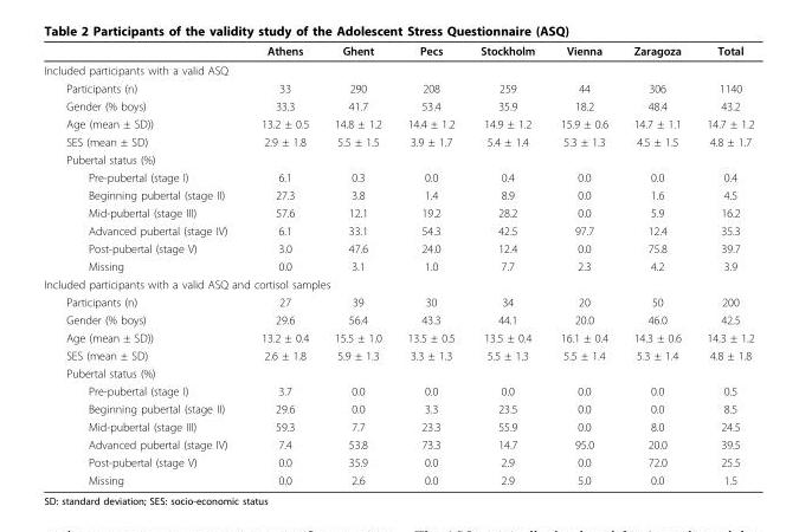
<table><thead><tr><td></td><td>Athens</td><td>Ghent</td><td>Pecs</td><td>Stockholm</td><td>Vienna</td><td>Zaragoza</td><td>Total</td></tr></thead><tbody><tr><td colspan="8">Included participants with a valid ASQ</td></tr><tr><td>Participants (n)</td><td>33</td><td>290</td><td>208</td><td>259</td><td>44</td><td>306</td><td>1140</td></tr><tr><td>Gender (% boys)</td><td>33.3</td><td>41.7</td><td>53.4</td><td>35.9</td><td>18.2</td><td>48.4</td><td>43.2</td></tr><tr><td>Age (mean ± SD))</td><td>13.2 ± 0.5</td><td>14.8 ± 1.2</td><td>14.4 ± 1.2</td><td>14.9 ± 1.2</td><td>15.9 ± 0.6</td><td>14.7 ± 1.1</td><td>14.7 ± 1.2</td></tr><tr><td>SES (mean ± SD)</td><td>2.9 ± 1.8</td><td>5.5 ± 1.5</td><td>3.9 ± 1.7</td><td>5.4 ± 1.4</td><td>5.3 ± 1.3</td><td>4.5 ± 1.5</td><td>4.8 ± 1.7</td></tr><tr><td colspan="8">Pubertal status (%)</td></tr><tr><td>Pre-pubertal (stage I)</td><td>6.1</td><td>0.3</td><td>0.0</td><td>0.4</td><td>0.0</td><td>0.0</td><td>0.4</td></tr><tr><td>Beginning pubertal (stage II)</td><td>27.3</td><td>3.8</td><td>1.4</td><td>8.9</td><td>0.0</td><td>1.6</td><td>4.5</td></tr><tr><td>Mid-pubertal (stage III)</td><td>57.6</td><td>12.1</td><td>19.2</td><td>28.2</td><td>0.0</td><td>5.9</td><td>16.2</td></tr><tr><td>Advanced pubertal (stage IV)</td><td>6.1</td><td>33.1</td><td>54.3</td><td>42.5</td><td>97.7</td><td>12.4</td><td>35.3</td></tr><tr><td>Post-pubertal (stage V)</td><td>3.0</td><td>47.6</td><td>24.0</td><td>12.4</td><td>0.0</td><td>75.8</td><td>39.7</td></tr><tr><td>Missing</td><td>0.0</td><td>3.1</td><td>1.0</td><td>7.7</td><td>2.3</td><td>4.2</td><td>3.9</td></tr><tr><td colspan="8">Included participants with a valid ASQ and cortisol samples</td></tr><tr><td>Participants (n)</td><td>27</td><td>39</td><td>30</td><td>34</td><td>20</td><td>50</td><td>200</td></tr><tr><td>Gender (% boys)</td><td>29.6</td><td>56.4</td><td>43.3</td><td>44.1</td><td>20.0</td><td>46.0</td><td>42.5</td></tr><tr><td>Age (mean ± SD))</td><td>13.2 ± 0.4</td><td>15.5 ± 1.0</td><td>13.5 ± 0.5</td><td>13.5 ± 0.4</td><td>16.1 ± 0.4</td><td>14.3 ± 0.6</td><td>14.3 ± 1.2</td></tr><tr><td>SES (mean ± SD)</td><td>2.6 ± 1.8</td><td>5.9 ± 1.3</td><td>3.3 ± 1.3</td><td>5.5 ± 1.3</td><td>5.5 ± 1.4</td><td>5.3 ± 1.4</td><td>4.8 ± 1.8</td></tr><tr><td colspan="8">Pubertal status (%)</td></tr><tr><td>Pre-pubertal (stage I)</td><td>3.7</td><td>0.0</td><td>0.0</td><td>0.0</td><td>0.0</td><td>0.0</td><td>0.5</td></tr><tr><td>Beginning pubertal (stage II)</td><td>29.6</td><td>0.0</td><td>3.3</td><td>23.5</td><td>0.0</td><td>0.0</td><td>8.5</td></tr><tr><td>Mid-pubertal (stage III)</td><td>59.3</td><td>7.7</td><td>23.3</td><td>55.9</td><td>0.0</td><td>8.0</td><td>24.5</td></tr><tr><td>Advanced pubertal (stage IV)</td><td>7.4</td><td>53.8</td><td>73.3</td><td>14.7</td><td>95.0</td><td>20.0</td><td>39.5</td></tr><tr><td>Post-pubertal (stage V)</td><td>0.0</td><td>35.9</td><td>0.0</td><td>2.9</td><td>0.0</td><td>72.0</td><td>25.5</td></tr><tr><td>Missing</td><td>0.0</td><td>2.6</td><td>0.0</td><td>2.9</td><td>5.0</td><td>0.0</td><td>1.5</td></tr></tbody></table>